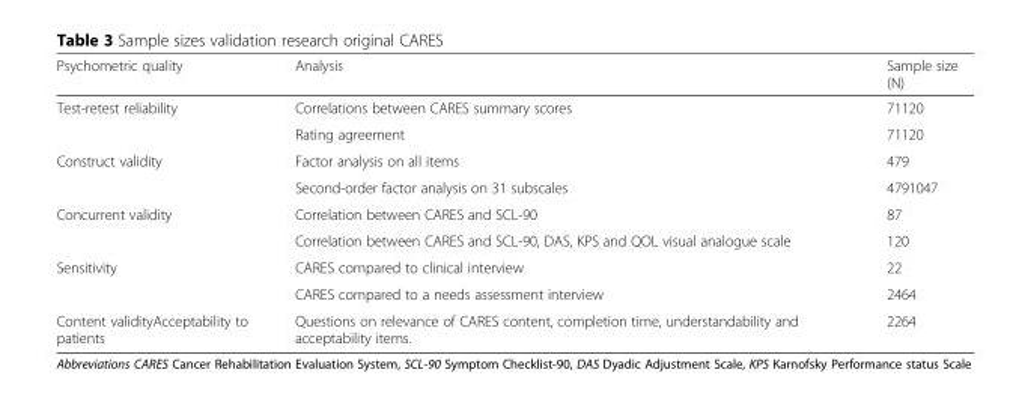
<table><thead><tr><td>Psychometric quality</td><td>Analysis</td><td>Sample size (N)</td></tr></thead><tbody><tr><td rowspan="2">Test-retest reliability</td><td>Correlations between CARES summary scores</td><td>71120</td></tr><tr><td>Rating agreement</td><td>71120</td></tr><tr><td rowspan="2">Construct validity</td><td>Factor analysis on all items</td><td>479</td></tr><tr><td>Second-order factor analysis on 31 subscales</td><td>4791047</td></tr><tr><td rowspan="2">Concurrent validity</td><td>Correlation between CARES and SCL-90</td><td>87</td></tr><tr><td>Correlation between CARES and SCL-90, DAS, KPS and QOL visual analogue scale</td><td>120</td></tr><tr><td rowspan="2">Sensitivity</td><td>CARES compared to clinical interview</td><td>22</td></tr><tr><td>CARES compared to a needs assessment interview</td><td>2464</td></tr><tr><td>Content validityAcceptability to patients</td><td>Questions on relevance of CARES content, completion time, understandability and acceptability items.</td><td>2264</td></tr></tbody></table>